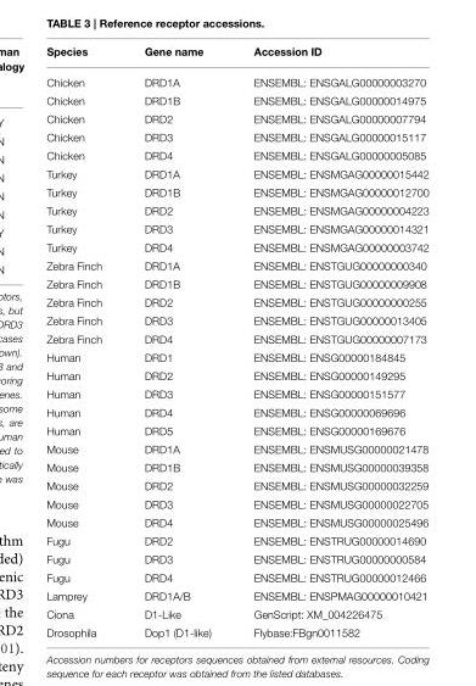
<table><thead><tr><td>Species</td><td>Gene name</td><td>Accession ID</td></tr></thead><tbody><tr><td>Chicken</td><td>DRD1A</td><td>ENSEMBL: ENSGALG00000003270</td></tr><tr><td>Chicken</td><td>DRD1B</td><td>ENSEMBL: ENSGALG00000014975</td></tr><tr><td>Chicken</td><td>DRD2</td><td>ENSEMBL: ENSGALG00000007794</td></tr><tr><td>Chicken</td><td>DRD3</td><td>ENSEMBL: ENSGALG00000015117</td></tr><tr><td>Chicken</td><td>DRD4</td><td>ENSEMBL: ENSGALG00000005085</td></tr><tr><td>Turkey</td><td>DRD1A</td><td>ENSEMBL: ENSMGAG00000015442</td></tr><tr><td>Turkey</td><td>DRD1B</td><td>ENSEMBL: ENSMGAG00000012700</td></tr><tr><td>Turkey</td><td>DRD2</td><td>ENSEMBL: ENSMGAG00000004223</td></tr><tr><td>Turkey</td><td>DRD3</td><td>ENSEMBL: ENSMGAG00000014321</td></tr><tr><td>Turkey</td><td>DRD4</td><td>ENSEMBL: ENSMGAG00000003742</td></tr><tr><td>Zebra Finch</td><td>DRD1A</td><td>ENSEMBL: ENSTGUG00000000340</td></tr><tr><td>Zebra Finch</td><td>DRD1B</td><td>ENSEMBL: ENSTGUG00000009908</td></tr><tr><td>Zebra Finch</td><td>DRD2</td><td>ENSEMBL: ENSTGUG00000000255</td></tr><tr><td>Zebra Finch</td><td>DRD3</td><td>ENSEMBL: ENSTGUG00000013405</td></tr><tr><td>Zebra Finch</td><td>DRD4</td><td>ENSEMBL: ENSTGUG00000007173</td></tr><tr><td>Human</td><td>DRD1</td><td>ENSEMBL: ENSG00000184845</td></tr><tr><td>Human</td><td>DRD2</td><td>ENSEMBL: ENSG00000149295</td></tr><tr><td>Human</td><td>DRD3</td><td>ENSEMBL: ENSG00000151577</td></tr><tr><td>Human</td><td>DRD4</td><td>ENSEMBL: ENSG00000069696</td></tr><tr><td>Human</td><td>DRD5</td><td>ENSEMBL: ENSG00000169676</td></tr><tr><td>Mouse</td><td>DRD1A</td><td>ENSEMBL: ENSMUSG00000021478</td></tr><tr><td>Mouse</td><td>DRD1B</td><td>ENSEMBL: ENSMUSG00000039358</td></tr><tr><td>Mouse</td><td>DRD2</td><td>ENSEMBL: ENSMUSG00000032259</td></tr><tr><td>Mouse</td><td>DRD3</td><td>ENSEMBL: ENSMUSG00000022705</td></tr><tr><td>Mouse</td><td>DRD4</td><td>ENSEMBL: ENSMUSG00000025496</td></tr><tr><td>Fugu</td><td>DRD2</td><td>ENSEMBL: ENSTRUG00000014690</td></tr><tr><td>Fugu</td><td>DRD3</td><td>ENSEMBL: ENSTRUG00000000584</td></tr><tr><td>Fugu</td><td>DRD4</td><td>ENSEMBL: ENSTRUG00000012466</td></tr><tr><td>Lamprey</td><td>DRD1A/B</td><td>ENSEMBL: ENSPMAG00000010421</td></tr><tr><td>Ciona</td><td>D1-Like</td><td>GenScript: XM_004226475</td></tr><tr><td>Drosophila</td><td>Dop1 (D1-like)</td><td>Flybase:FBgn0011582</td></tr></tbody></table>